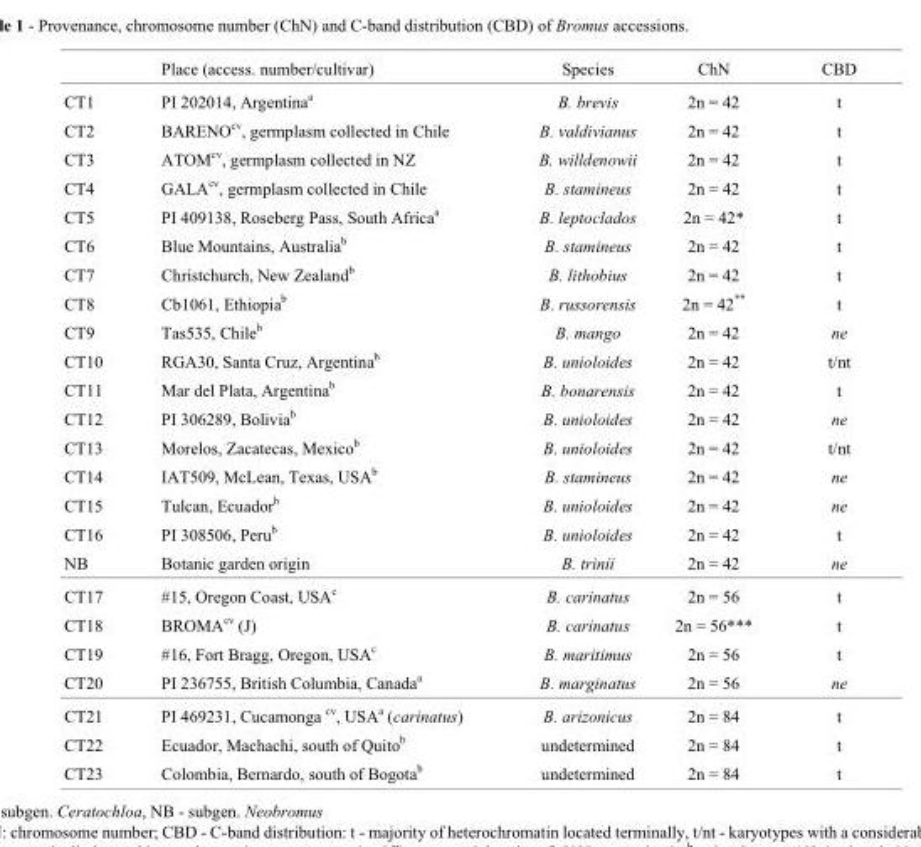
<table><thead><tr><td></td><td>Place (access. number/cultivar)</td><td>Species</td><td>ChN</td><td>CBD</td></tr></thead><tbody><tr><td>CT1</td><td>PI 202014, Argentina<sup>a</sup></td><td>B. brevis</td><td>2n = 42</td><td>t</td></tr><tr><td>CT2</td><td>BARENO<sup>cv</sup>, germplasm collected in Chile</td><td>B. valdivianus</td><td>2n = 42</td><td>t</td></tr><tr><td>CT3</td><td>ATOM<sup>cv</sup>, germplasm collected in NZ</td><td>B. willdenowii</td><td>2n = 42</td><td>t</td></tr><tr><td>CT4</td><td>GALA<sup>cv</sup>, germplasm collected in Chile</td><td>B. stamineus</td><td>2n = 42</td><td>t</td></tr><tr><td>CT5</td><td>PI 409138, Roseberg Pass, South Africa<sup>a</sup></td><td>B. leptoclados</td><td>2n = 42*</td><td>t</td></tr><tr><td>CT6</td><td>Blue Mountains, Australia<sup>b</sup></td><td>B. stamineus</td><td>2n = 42</td><td>t</td></tr><tr><td>CT7</td><td>Christchurch, New Zealand<sup>b</sup></td><td>B. lithobius</td><td>2n = 42</td><td>t</td></tr><tr><td>CT8</td><td>Cb1061, Ethiopia<sup>b</sup></td><td>B. russorensis</td><td>2n = 42**</td><td>t</td></tr><tr><td>CT9</td><td>Tas535, Chile<sup>b</sup></td><td>B. mango</td><td>2n = 42</td><td>ne</td></tr><tr><td>CT10</td><td>RGA30, Santa Cruz, Argentina<sup>b</sup></td><td>B. unioloides</td><td>2n = 42</td><td>t/nt</td></tr><tr><td>CT11</td><td>Mar del Plata, Argentina<sup>b</sup></td><td>B. bonarensis</td><td>2n = 42</td><td>t</td></tr><tr><td>CT12</td><td>PI 306289, Bolivia<sup>b</sup></td><td>B. unioloides</td><td>2n = 42</td><td>ne</td></tr><tr><td>CT13</td><td>Morelos, Zacatecas, Mexico<sup>b</sup></td><td>B. unioloides</td><td>2n = 42</td><td>t/nt</td></tr><tr><td>CT14</td><td>IAT509, McLean, Texas, USA<sup>b</sup></td><td>B. stamineus</td><td>2n = 42</td><td>ne</td></tr><tr><td>CT15</td><td>Tulcan, Ecuador<sup>b</sup></td><td>B. unioloides</td><td>2n = 42</td><td>ne</td></tr><tr><td>CT16</td><td>PI 308506, Peru<sup>b</sup></td><td>B. unioloides</td><td>2n = 42</td><td>t</td></tr><tr><td>NB</td><td>Botanic garden origin</td><td>B. trinii</td><td>2n = 42</td><td>ne</td></tr><tr><td>CT17</td><td>#15, Oregon Coast, USA<sup>c</sup></td><td>B. carinatus</td><td>2n = 56</td><td>t</td></tr><tr><td>CT18</td><td>BROMA<sup>cv</sup> (J)</td><td>B. carinatus</td><td>2n = 56***</td><td>t</td></tr><tr><td>CT19</td><td>#16, Fort Bragg, Oregon, USA<sup>c</sup></td><td>B. maritimus</td><td>2n = 56</td><td>t</td></tr><tr><td>CT20</td><td>PI 236755, British Columbia, Canada<sup>a</sup></td><td>B. marginatus</td><td>2n = 56</td><td>ne</td></tr><tr><td>CT21</td><td>PI 469231, Cucamonga <sup>cv</sup>, USA<sup>a</sup> (carinatus)</td><td>B. arizonicus</td><td>2n = 84</td><td>t</td></tr><tr><td>CT22</td><td>Ecuador, Machachi, south of Quito<sup>b</sup></td><td>undetermined</td><td>2n = 84</td><td>t</td></tr><tr><td>CT23</td><td>Colombia, Bernardo, south of Bogota<sup>b</sup></td><td>undetermined</td><td>2n = 84</td><td>t</td></tr></tbody></table>